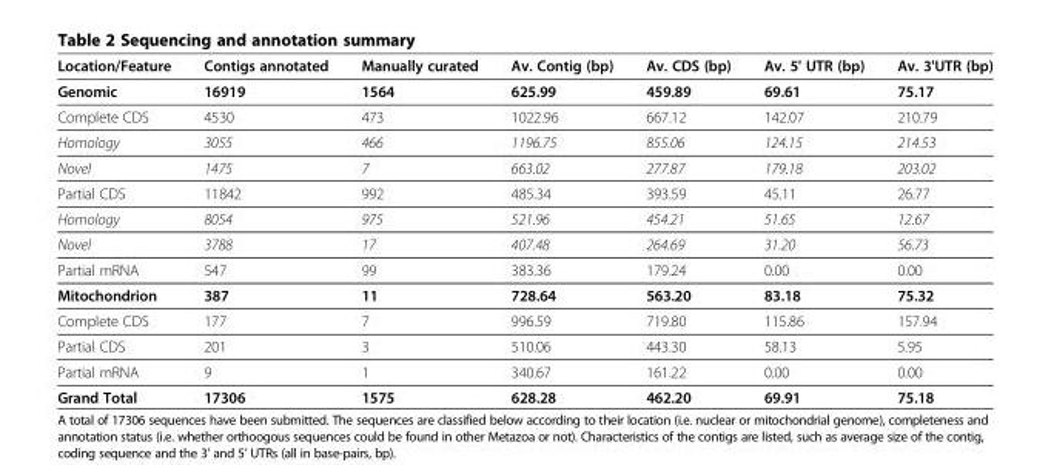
<table><thead><tr><td>Location/Feature</td><td>Contigs annotated</td><td>Manually curated</td><td>Av. Contig (bp)</td><td>Av. CDS (bp)</td><td>Av. 5&#x27; UTR (bp)</td><td>Av. 3&#x27;UTR (bp)</td></tr></thead><tbody><tr><td>Genomic</td><td>16919</td><td>1564</td><td>625.99</td><td>459.89</td><td>69.61</td><td>75.17</td></tr><tr><td>Complete CDS</td><td>4530</td><td>473</td><td>1022.96</td><td>667.12</td><td>142.07</td><td>210.79</td></tr><tr><td>Homology</td><td>3055</td><td>466</td><td>1196.75</td><td>855.06</td><td>124.15</td><td>214.53</td></tr><tr><td>Novel</td><td>1475</td><td>7</td><td>663.02</td><td>277.87</td><td>179.18</td><td>203.02</td></tr><tr><td>Partial CDS</td><td>11842</td><td>992</td><td>485.34</td><td>393.59</td><td>45.11</td><td>26.77</td></tr><tr><td>Homology</td><td>8054</td><td>975</td><td>521.96</td><td>454.21</td><td>51.65</td><td>12.67</td></tr><tr><td>Novel</td><td>3788</td><td>17</td><td>407.48</td><td>264.69</td><td>31.20</td><td>56.73</td></tr><tr><td>Partial mRNA</td><td>547</td><td>99</td><td>383.36</td><td>179.24</td><td>0.00</td><td>0.00</td></tr><tr><td>Mitochondrion</td><td>387</td><td>11</td><td>728.64</td><td>563.20</td><td>83.18</td><td>75.32</td></tr><tr><td>Complete CDS</td><td>177</td><td>7</td><td>996.59</td><td>719.80</td><td>115.86</td><td>157.94</td></tr><tr><td>Partial CDS</td><td>201</td><td>3</td><td>510.06</td><td>443.30</td><td>58.13</td><td>5.95</td></tr><tr><td>Partial mRNA</td><td>9</td><td>1</td><td>340.67</td><td>161.22</td><td>0.00</td><td>0.00</td></tr><tr><td>Grand Total</td><td>17306</td><td>1575</td><td>628.28</td><td>462.20</td><td>69.91</td><td>75.18</td></tr></tbody></table>